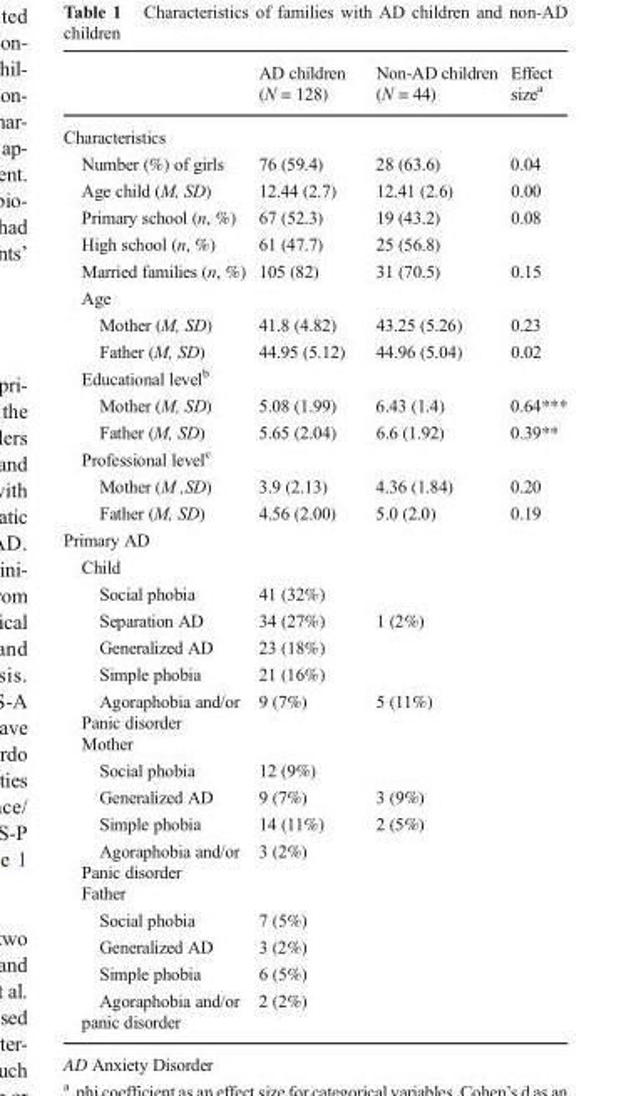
<table><thead><tr><td></td><td>AD children (N = 128)</td><td>Non-AD children (N = 44)</td><td>Effect size<sup>a</sup></td></tr></thead><tbody><tr><td colspan="4">Characteristics</td></tr><tr><td>Number (%) of girls</td><td>76 (59.4)</td><td>28 (63.6)</td><td>0.04</td></tr><tr><td>Age child (M, SD)</td><td>12.44 (2.7)</td><td>12.41 (2.6)</td><td>0.00</td></tr><tr><td>Primary school (n, %)</td><td>67 (52.3)</td><td>19 (43.2)</td><td>0.08</td></tr><tr><td>High school (n, %)</td><td>61 (47.7)</td><td>25 (56.8)</td><td></td></tr><tr><td>Married families (n, %)</td><td>105 (82)</td><td>31 (70.5)</td><td>0.15</td></tr><tr><td colspan="4">Age</td></tr><tr><td>Mother (M, SD)</td><td>41.8 (4.82)</td><td>43.25 (5.26)</td><td>0.23</td></tr><tr><td>Father (M, SD)</td><td>44.95 (5.12)</td><td>44.96 (5.04)</td><td>0.02</td></tr><tr><td colspan="4">Educational level<sup>b</sup></td></tr><tr><td>Mother (M, SD)</td><td>5.08 (1.99)</td><td>6.43 (1.4)</td><td>0.64***</td></tr><tr><td>Father (M, SD)</td><td>5.65 (2.04)</td><td>6.6 (1.92)</td><td>0.39**</td></tr><tr><td colspan="4">Professional level<sup>c</sup></td></tr><tr><td>Mother (M ,SD)</td><td>3.9 (2.13)</td><td>4.36 (1.84)</td><td>0.20</td></tr><tr><td>Father (M, SD)</td><td>4.56 (2.00)</td><td>5.0 (2.0)</td><td>0.19</td></tr><tr><td colspan="4">Primary AD</td></tr><tr><td colspan="4">Child</td></tr><tr><td>Social phobia</td><td>41 (32%)</td><td></td><td></td></tr><tr><td>Separation AD</td><td>34 (27%)</td><td>1 (2%)</td><td></td></tr><tr><td>Generalized AD</td><td>23 (18%)</td><td></td><td></td></tr><tr><td>Simple phobia</td><td>21 (16%)</td><td></td><td></td></tr><tr><td>Agoraphobia and/or Panic disorder</td><td>9 (7%)</td><td>5 (11%)</td><td></td></tr><tr><td colspan="4">Mother</td></tr><tr><td>Social phobia</td><td>12 (9%)</td><td></td><td></td></tr><tr><td>Generalized AD</td><td>9 (7%)</td><td>3 (9%)</td><td></td></tr><tr><td>Simple phobia</td><td>14 (11%)</td><td>2 (5%)</td><td></td></tr><tr><td>Agoraphobia and/or Panic disorder</td><td>3 (2%)</td><td></td><td></td></tr><tr><td colspan="4">Father</td></tr><tr><td>Social phobia</td><td>7 (5%)</td><td></td><td></td></tr><tr><td>Generalized AD</td><td>3 (2%)</td><td></td><td></td></tr><tr><td>Simple phobia</td><td>6 (5%)</td><td></td><td></td></tr><tr><td>Agoraphobia and/or panic disorder</td><td>2 (2%)</td><td></td><td></td></tr></tbody></table>